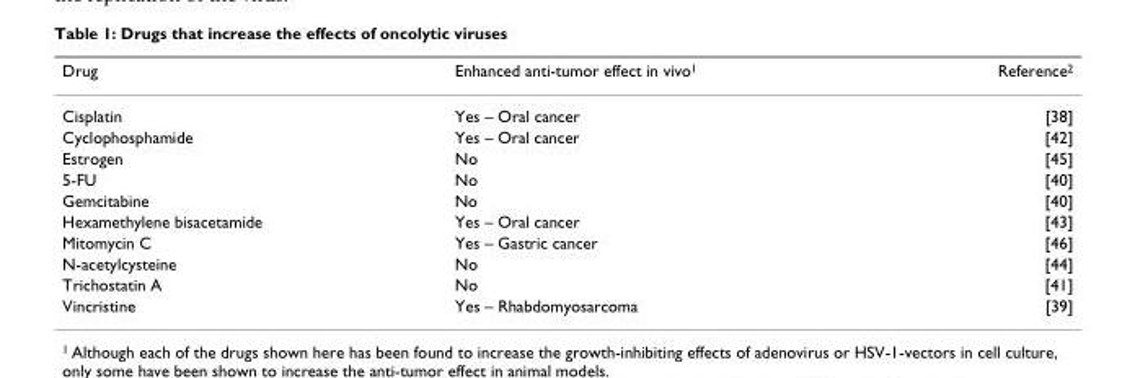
<table><thead><tr><td>Drug</td><td>Enhanced anti-tumor effect in vivo<sup>1</sup></td><td>Reference<sup>2</sup></td></tr></thead><tbody><tr><td>Cisplatin</td><td>Yes – Oral cancer</td><td>[38]</td></tr><tr><td>Cyclophosphamide</td><td>Yes – Oral cancer</td><td>[42]</td></tr><tr><td>Estrogen</td><td>No</td><td>[45]</td></tr><tr><td>5-FU</td><td>No</td><td>[40]</td></tr><tr><td>Gemcitabine</td><td>No</td><td>[40]</td></tr><tr><td>Hexamethylene bisacetamide</td><td>Yes – Oral cancer</td><td>[43]</td></tr><tr><td>Mitomycin C</td><td>Yes – Gastric cancer</td><td>[46]</td></tr><tr><td>N-acetylcysteine</td><td>No</td><td>[44]</td></tr><tr><td>Trichostatin A</td><td>No</td><td>[41]</td></tr><tr><td>Vincristine</td><td>Yes – Rhabdomyosarcoma</td><td>[39]</td></tr></tbody></table>